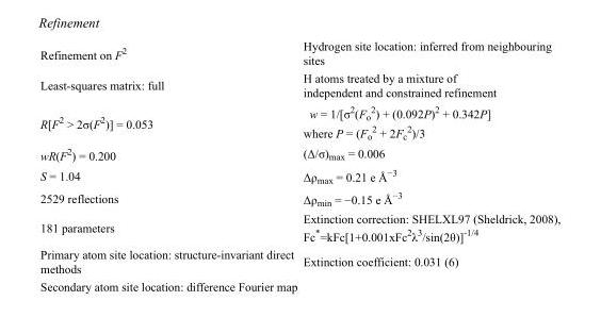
<table><tbody><tr><td>Refinement on F<sup>2</sup></td><td>Hydrogen site location: inferred from neighbouring sites</td></tr><tr><td>Least-squares matrix: full</td><td>H atoms treated by a mixture of independent and constrained refinement</td></tr><tr><td>R[F<sup>2</sup> &gt; 2σ(F<sup>2</sup>)] = 0.053</td><td>w = 1/[σ<sup>2</sup>(F<sub>o</sub> <sup>2</sup>) + (0.092P)<sup>2</sup> + 0.342P] where P = (F<sub>o</sub> <sup>2</sup> + 2F<sub>c</sub> <sup>2</sup>)/3</td></tr><tr><td>wR(F<sup>2</sup>) = 0.200</td><td>(Δ/σ)<sub>max</sub> = 0.006</td></tr><tr><td>S = 1.04</td><td>Δρ<sub>max</sub> = 0.21 e Å<sup>−3</sup></td></tr><tr><td>2529 reflections</td><td>Δρ<sub>min</sub> = −0.15 e Å<sup>−3</sup></td></tr><tr><td>181 parameters</td><td>Extinction correction: SHELXL97 (Sheldrick, 2008), Fc*=kFc[1+0.001xFc<sup>2</sup>λ<sup>3</sup>/sin(2θ)]<sup>-1/4</sup></td></tr><tr><td>Primary atom site location: structure-invariant direct methods</td><td>Extinction coefficient: 0.031 (6)</td></tr><tr><td>Secondary atom site location: difference Fourier map</td><td></td></tr></tbody></table>